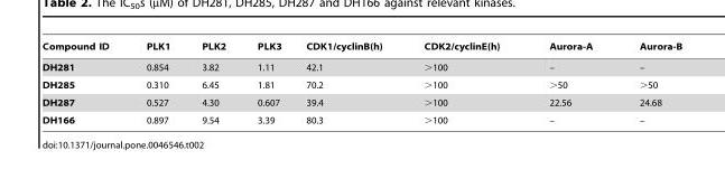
<table><thead><tr><td>Compound ID</td><td>PLK1</td><td>PLK2</td><td>PLK3</td><td>CDK1/cyclinB(h)</td><td>CDK2/cyclinE(h)</td><td>Aurora-A</td><td>Aurora-B</td></tr></thead><tbody><tr><td>DH281</td><td>0.854</td><td>3.82</td><td>1.11</td><td>42.1</td><td>&gt;100</td><td>–</td><td>–</td></tr><tr><td>DH285</td><td>0.310</td><td>6.45</td><td>1.81</td><td>70.2</td><td>&gt;100</td><td>&gt;50</td><td>&gt;50</td></tr><tr><td>DH287</td><td>0.527</td><td>4.30</td><td>0.607</td><td>39.4</td><td>&gt;100</td><td>22.56</td><td>24.68</td></tr><tr><td>DH166</td><td>0.897</td><td>9.54</td><td>3.39</td><td>80.3</td><td>&gt;100</td><td>–</td><td>–</td></tr></tbody></table>